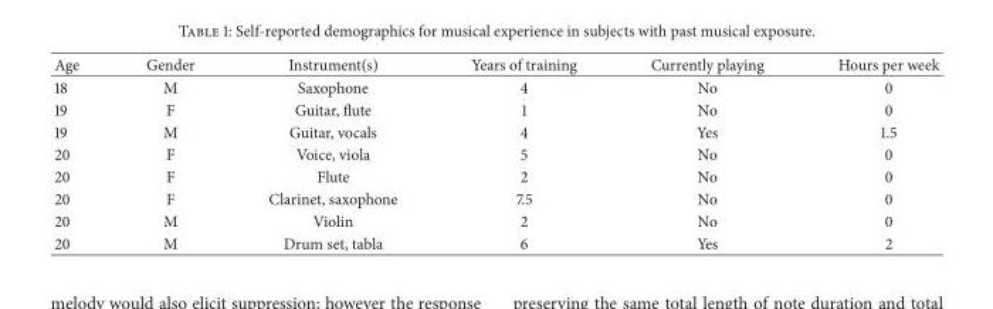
<table><thead><tr><td>Age</td><td>Gender</td><td>Instrument(s)</td><td>Years of training</td><td>Currently playing</td><td>Hours per week</td></tr></thead><tbody><tr><td>18</td><td>M</td><td>Saxophone</td><td>4</td><td>No</td><td>0</td></tr><tr><td>19</td><td>F</td><td>Guitar, flute</td><td>1</td><td>No</td><td>0</td></tr><tr><td>19</td><td>M</td><td>Guitar, vocals</td><td>4</td><td>Yes</td><td>1.5</td></tr><tr><td>20</td><td>F</td><td>Voice, viola</td><td>5</td><td>No</td><td>0</td></tr><tr><td>20</td><td>F</td><td>Flute</td><td>2</td><td>No</td><td>0</td></tr><tr><td>20</td><td>F</td><td>Clarinet, saxophone</td><td>7.5</td><td>No</td><td>0</td></tr><tr><td>20</td><td>M</td><td>Violin</td><td>2</td><td>No</td><td>0</td></tr><tr><td>20</td><td>M</td><td>Drum set, tabla</td><td>6</td><td>Yes</td><td>2</td></tr></tbody></table>